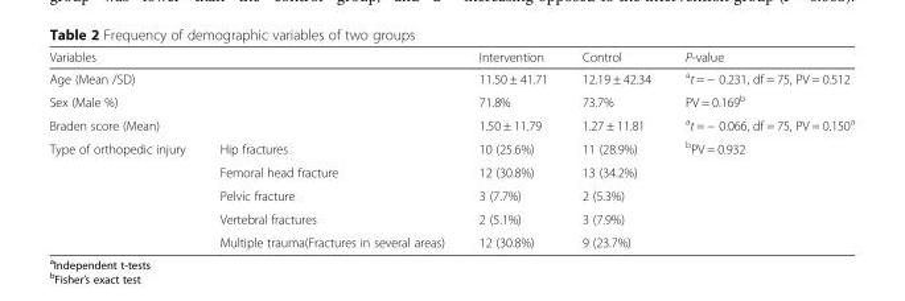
<table><thead><tr><td colspan="2">Variables</td><td>Intervention</td><td>Control</td><td>P-value</td></tr></thead><tbody><tr><td colspan="2">Age (Mean /SD)</td><td>11.50 ± 41.71</td><td>12.19 ± 42.34</td><td><sup>a</sup>t = − 0.231, df = 75, PV = 0.512</td></tr><tr><td colspan="2">Sex (Male %)</td><td>71.8%</td><td>73.7%</td><td>PV = 0.169<sup>b</sup></td></tr><tr><td colspan="2">Braden score (Mean)</td><td>1.50 ± 11.79</td><td>1.27 ± 11.81</td><td><sup>a</sup>t = − 0.066, df = 75, PV = 0.150<sup>a</sup></td></tr><tr><td rowspan="5">Type of orthopedic injury</td><td>Hip fractures</td><td>10 (25.6%)</td><td>11 (28.9%)</td><td rowspan="5"><sup>b</sup>PV = 0.932</td></tr><tr><td>Femoral head fracture</td><td>12 (30.8%)</td><td>13 (34.2%)</td></tr><tr><td>Pelvic fracture</td><td>3 (7.7%)</td><td>2 (5.3%)</td></tr><tr><td>Vertebral fractures</td><td>2 (5.1%)</td><td>3 (7.9%)</td></tr><tr><td>Multiple trauma(Fractures in several areas)</td><td>12 (30.8%)</td><td>9 (23.7%)</td></tr></tbody></table>